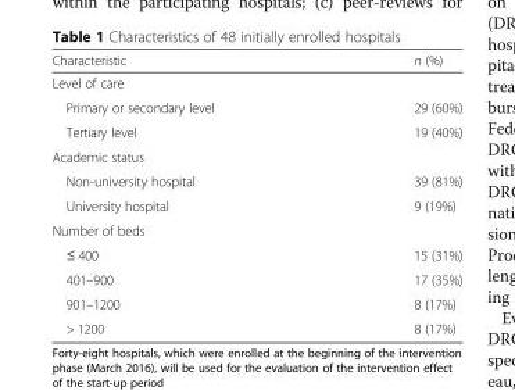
<table><thead><tr><td>Characteristic</td><td>n (%)</td></tr></thead><tbody><tr><td colspan="2">Level of care</td></tr><tr><td>Primary or secondary level</td><td>29 (60%)</td></tr><tr><td>Tertiary level</td><td>19 (40%)</td></tr><tr><td colspan="2">Academic status</td></tr><tr><td>Non-university hospital</td><td>39 (81%)</td></tr><tr><td>University hospital</td><td>9 (19%)</td></tr><tr><td colspan="2">Number of beds</td></tr><tr><td>≤ 400</td><td>15 (31%)</td></tr><tr><td>401–900</td><td>17 (35%)</td></tr><tr><td>901–1200</td><td>8 (17%)</td></tr><tr><td>&gt; 1200</td><td>8 (17%)</td></tr></tbody></table>